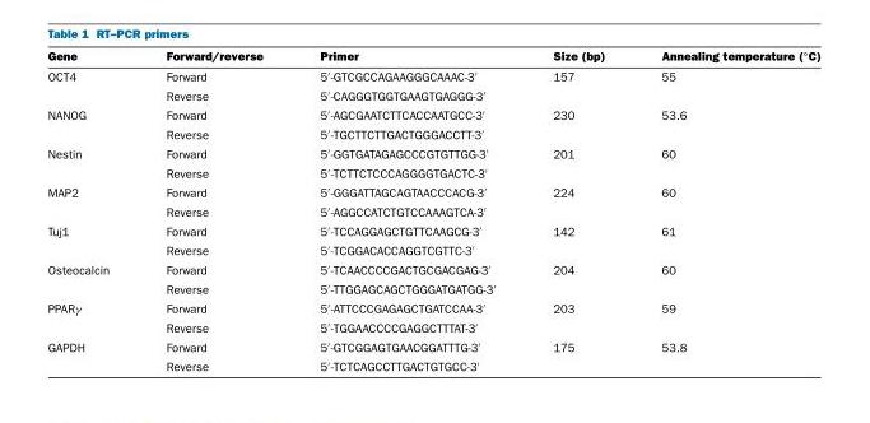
<table><thead><tr><td>Gene</td><td>Forward/reverse</td><td>Primer</td><td>Size (bp)</td><td>Annealing temperature (◦C)</td></tr></thead><tbody><tr><td rowspan="2">OCT4</td><td>Forward</td><td>5′-GTCGCCAGAAGGGCAAAC-3′</td><td>157</td><td>55</td></tr><tr><td>Reverse</td><td>5′-CAGGGTGGTGAAGTGAGGG-3′</td><td></td><td></td></tr><tr><td rowspan="2">NANOG</td><td>Forward</td><td>5′-AGCGAATCTTCACCAATGCC-3′</td><td>230</td><td>53.6</td></tr><tr><td>Reverse</td><td>5′-TGCTTCTTGACTGGGACCTT-3′</td><td></td><td></td></tr><tr><td rowspan="2">Nestin</td><td>Forward</td><td>5′-GGTGATAGAGCCCGTGTTGG-3′</td><td>201</td><td>60</td></tr><tr><td>Reverse</td><td>5′-TCTTCTCCCAGGGGTGACTC-3′</td><td></td><td></td></tr><tr><td rowspan="2">MAP2</td><td>Forward</td><td>5′-GGGATTAGCAGTAACCCACG-3′</td><td>224</td><td>60</td></tr><tr><td>Reverse</td><td>5′-AGGCCATCTGTCCAAAGTCA-3′</td><td></td><td></td></tr><tr><td rowspan="2">Tuj1</td><td>Forward</td><td>5′-TCCAGGAGCTGTTCAAGCG-3′</td><td>142</td><td>61</td></tr><tr><td>Reverse</td><td>5′-TCGGACACCAGGTCGTTC-3′</td><td></td><td></td></tr><tr><td rowspan="2">Osteocalcin</td><td>Forward</td><td>5′-TCAACCCCGACTGCGACGAG-3′</td><td>204</td><td>60</td></tr><tr><td>Reverse</td><td>5′-TTGGAGCAGCTGGGATGATGG-3′</td><td></td><td></td></tr><tr><td rowspan="2">PPARγ</td><td>Forward</td><td>5′-ATTCCCGAGAGCTGATCCAA-3′</td><td>203</td><td>59</td></tr><tr><td>Reverse</td><td>5′-TGGAACCCCGAGGCTTTAT-3′</td><td></td><td></td></tr><tr><td rowspan="2">GAPDH</td><td>Forward</td><td>5′-GTCGGAGTGAACGGATTTG-3′</td><td>175</td><td>53.8</td></tr><tr><td>Reverse</td><td>5′-TCTCAGCCTTGACTGTGCC-3′</td><td></td><td></td></tr></tbody></table>